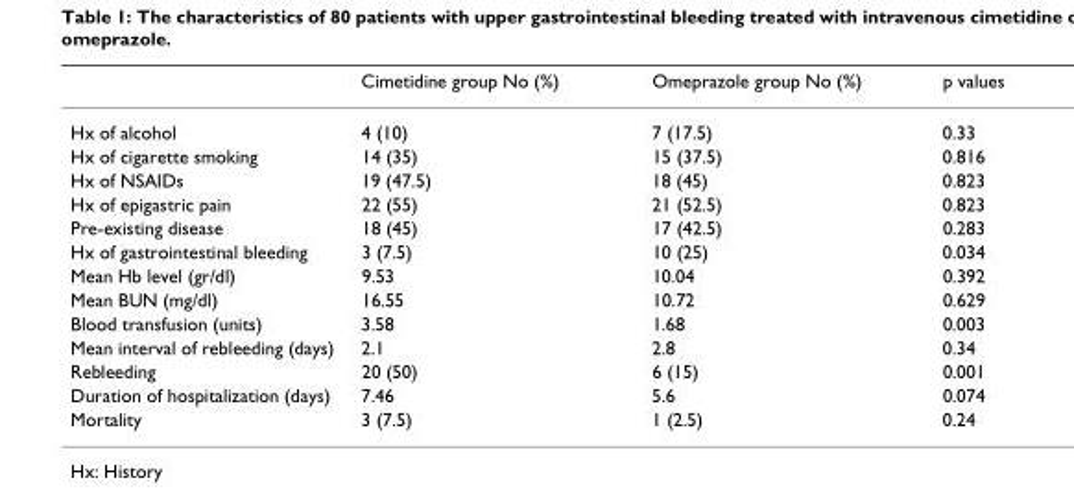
<table><thead><tr><td></td><td>Cimetidine group No (%)</td><td>Omeprazole group No (%)</td><td>p values</td></tr></thead><tbody><tr><td>Hx of alcohol</td><td>4 (10)</td><td>7 (17.5)</td><td>0.33</td></tr><tr><td>Hx of cigarette smoking</td><td>14 (35)</td><td>15 (37.5)</td><td>0.816</td></tr><tr><td>Hx of NSAIDs</td><td>19 (47.5)</td><td>18 (45)</td><td>0.823</td></tr><tr><td>Hx of epigastric pain</td><td>22 (55)</td><td>21 (52.5)</td><td>0.823</td></tr><tr><td>Pre-existing disease</td><td>18 (45)</td><td>17 (42.5)</td><td>0.283</td></tr><tr><td>Hx of gastrointestinal bleeding</td><td>3 (7.5)</td><td>10 (25)</td><td>0.034</td></tr><tr><td>Mean Hb level (gr/dl)</td><td>9.53</td><td>10.04</td><td>0.392</td></tr><tr><td>Mean BUN (mg/dl)</td><td>16.55</td><td>10.72</td><td>0.629</td></tr><tr><td>Blood transfusion (units)</td><td>3.58</td><td>1.68</td><td>0.003</td></tr><tr><td>Mean interval of rebleeding (days)</td><td>2.1</td><td>2.8</td><td>0.34</td></tr><tr><td>Rebleeding</td><td>20 (50)</td><td>6 (15)</td><td>0.001</td></tr><tr><td>Duration of hospitalization (days)</td><td>7.46</td><td>5.6</td><td>0.074</td></tr><tr><td>Mortality</td><td>3 (7.5)</td><td>1 (2.5)</td><td>0.24</td></tr></tbody></table>